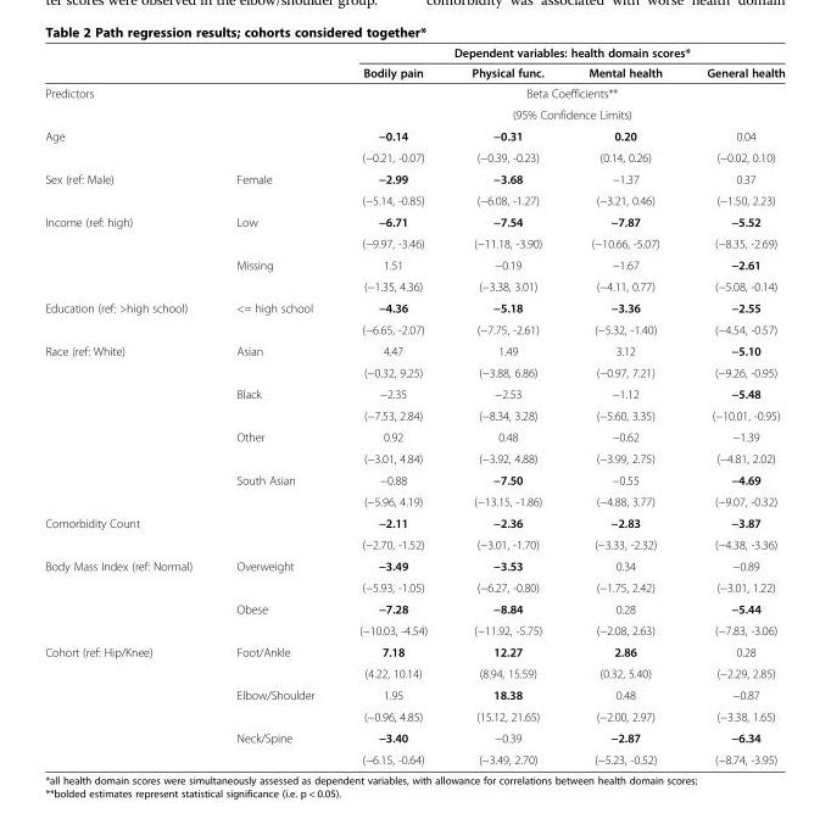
<table><thead><tr><td rowspan="2"></td><td rowspan="2"></td><td colspan="4">Dependent variables: health domain scores*</td></tr><tr><td>Bodily pain</td><td>Physical func.</td><td>Mental health</td><td>General health</td></tr></thead><tbody><tr><td rowspan="2">Predictors</td><td rowspan="2"></td><td></td><td colspan="2">Beta Coefficients**</td><td></td></tr><tr><td></td><td colspan="2">(95% Confidence Limits)</td><td></td></tr><tr><td rowspan="2">Age</td><td></td><td>−0.14</td><td>−0.31</td><td>0.20</td><td>0.04</td></tr><tr><td></td><td>(−0.21, -0.07)</td><td>(−0.39, -0.23)</td><td>(0.14, 0.26)</td><td>(−0.02, 0.10)</td></tr><tr><td rowspan="2">Sex (ref: Male)</td><td>Female</td><td>−2.99</td><td>−3.68</td><td>−1.37</td><td>0.37</td></tr><tr><td></td><td>(−5.14, -0.85)</td><td>(−6.08, -1.27)</td><td>(−3.21, 0.46)</td><td>(−1.50, 2.23)</td></tr><tr><td rowspan="4">Income (ref: high)</td><td>Low</td><td>−6.71</td><td>−7.54</td><td>−7.87</td><td>−5.52</td></tr><tr><td></td><td>(−9.97, -3.46)</td><td>(−11.18, -3.90)</td><td>(−10.66, -5.07)</td><td>(−8.35, -2.69)</td></tr><tr><td>Missing</td><td>1.51</td><td>−0.19</td><td>−1.67</td><td>−2.61</td></tr><tr><td></td><td>(−1.35, 4.36)</td><td>(−3.38, 3.01)</td><td>(−4.11, 0.77)</td><td>(−5.08, -0.14)</td></tr><tr><td rowspan="2">Education (ref: &gt;high school)</td><td>&lt;= high school</td><td>−4.36</td><td>−5.18</td><td>−3.36</td><td>−2.55</td></tr><tr><td></td><td>(−6.65, -2.07)</td><td>(−7.75, -2.61)</td><td>(−5.32, -1.40)</td><td>(−4.54, -0.57)</td></tr><tr><td rowspan="8">Race (ref: White)</td><td>Asian</td><td>4.47</td><td>1.49</td><td>3.12</td><td>−5.10</td></tr><tr><td></td><td>(−0.32, 9.25)</td><td>(−3.88, 6.86)</td><td>(−0.97, 7.21)</td><td>(−9.26, -0.95)</td></tr><tr><td>Black</td><td>−2.35</td><td>−2.53</td><td>−1.12</td><td>−5.48</td></tr><tr><td></td><td>(−7.53, 2.84)</td><td>(−8.34, 3.28)</td><td>(−5.60, 3.35)</td><td>(−10.01, -0.95)</td></tr><tr><td>Other</td><td>0.92</td><td>0.48</td><td>−0.62</td><td>−1.39</td></tr><tr><td></td><td>(−3.01, 4.84)</td><td>(−3.92, 4.88)</td><td>(−3.99, 2.75)</td><td>(−4.81, 2.02)</td></tr><tr><td>South Asian</td><td>−0.88</td><td>−7.50</td><td>−0.55</td><td>−4.69</td></tr><tr><td></td><td>(−5.96, 4.19)</td><td>(−13.15, -1.86)</td><td>(−4.88, 3.77)</td><td>(−9.07, -0.32)</td></tr><tr><td rowspan="2">Comorbidity Count</td><td></td><td>−2.11</td><td>−2.36</td><td>−2.83</td><td>−3.87</td></tr><tr><td></td><td>(−2.70, -1.52)</td><td>(−3.01, -1.70)</td><td>(−3.33, -2.32)</td><td>(−4.38, -3.36)</td></tr><tr><td rowspan="4">Body Mass Index (ref: Normal)</td><td>Overweight</td><td>−3.49</td><td>−3.53</td><td>0.34</td><td>−0.89</td></tr><tr><td></td><td>(−5.93, -1.05)</td><td>(−6.27, -0.80)</td><td>(−1.75, 2.42)</td><td>(−3.01, 1.22)</td></tr><tr><td>Obese</td><td>−7.28</td><td>−8.84</td><td>0.28</td><td>−5.44</td></tr><tr><td></td><td>(−10.03, -4.54)</td><td>(−11.92, -5.75)</td><td>(−2.08, 2.63)</td><td>(−7.83, -3.06)</td></tr><tr><td rowspan="6">Cohort (ref: Hip/Knee)</td><td>Foot/Ankle</td><td>7.18</td><td>12.27</td><td>2.86</td><td>0.28</td></tr><tr><td></td><td>(4.22, 10.14)</td><td>(8.94, 15.59)</td><td>(0.32, 5.40)</td><td>(−2.29, 2.85)</td></tr><tr><td>Elbow/Shoulder</td><td>1.95</td><td>18.38</td><td>0.48</td><td>−0.87</td></tr><tr><td></td><td>(−0.96, 4.85)</td><td>(15.12, 21.65)</td><td>(−2.00, 2.97)</td><td>(−3.38, 1.65)</td></tr><tr><td>Neck/Spine</td><td>−3.40</td><td>−0.39</td><td>−2.87</td><td>−6.34</td></tr><tr><td></td><td>(−6.15, -0.64)</td><td>(−3.49, 2.70)</td><td>(−5.23, -0.52)</td><td>(−8.74, -3.95)</td></tr></tbody></table>